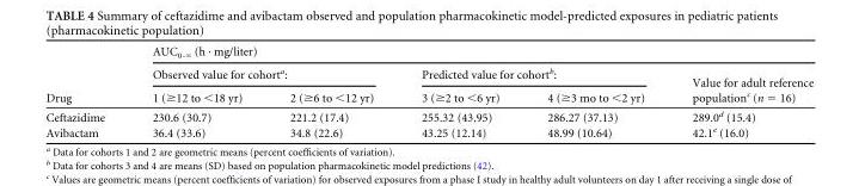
<table><thead><tr><td rowspan="3">Drug</td><td colspan="5">AUC<sub>0-∞</sub> (h · mg/liter)</td></tr><tr><td colspan="2">Observed value for cohort<sup>a</sup>:</td><td colspan="2">Predicted value for cohort<sup>b</sup>:</td><td rowspan="2">Value for adult reference population<sup>c</sup> (n = 16)</td></tr><tr><td>1 (≥12 to &lt;18 yr)</td><td>2 (≥6 to &lt;12 yr)</td><td>3 (≥2 to &lt;6 yr)</td><td>4 (≥3 mo to &lt;2 yr)</td></tr></thead><tbody><tr><td>Ceftazidime</td><td>230.6 (30.7)</td><td>221.2 (17.4)</td><td>255.32 (43.95)</td><td>286.27 (37.13)</td><td>289.0<sup>d</sup> (15.4)</td></tr><tr><td>Avibactam</td><td>36.4 (33.6)</td><td>34.8 (22.6)</td><td>43.25 (12.14)</td><td>48.99 (10.64)</td><td>42.1<sup>e</sup> (16.0)</td></tr></tbody></table>